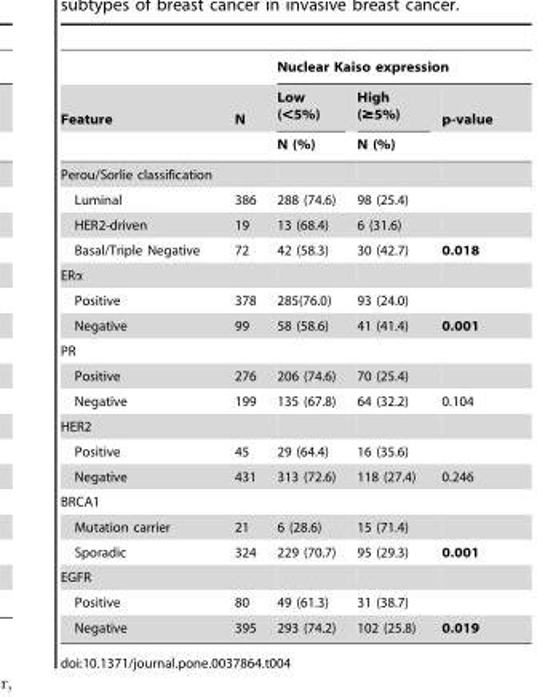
<table><thead><tr><td rowspan="3">Feature</td><td rowspan="3">N</td><td colspan="3">Nuclear Kaiso expression</td></tr><tr><td rowspan="2">Low (&lt;5%) N (%)</td><td rowspan="2">High (≥5%) N (%)</td><td rowspan="2">p-value</td></tr><tr></tr></thead><tbody><tr><td colspan="5">Perou/Sorlie classification</td></tr><tr><td>Luminal</td><td>386</td><td>288 (74.6)</td><td>98 (25.4)</td><td></td></tr><tr><td>HER2-driven</td><td>19</td><td>13 (68.4)</td><td>6 (31.6)</td><td></td></tr><tr><td>Basal/Triple Negative</td><td>72</td><td>42 (58.3)</td><td>30 (42.7)</td><td>0.018</td></tr><tr><td colspan="5">ERα</td></tr><tr><td>Positive</td><td>378</td><td>285(76.0)</td><td>93 (24.0)</td><td></td></tr><tr><td>Negative</td><td>99</td><td>58 (58.6)</td><td>41 (41.4)</td><td>0.001</td></tr><tr><td colspan="5">PR</td></tr><tr><td>Positive</td><td>276</td><td>206 (74.6)</td><td>70 (25.4)</td><td></td></tr><tr><td>Negative</td><td>199</td><td>135 (67.8)</td><td>64 (32.2)</td><td>0.104</td></tr><tr><td colspan="5">HER2</td></tr><tr><td>Positive</td><td>45</td><td>29 (64.4)</td><td>16 (35.6)</td><td></td></tr><tr><td>Negative</td><td>431</td><td>313 (72.6)</td><td>118 (27.4)</td><td>0.246</td></tr><tr><td colspan="5">BRCA1</td></tr><tr><td>Mutation carrier</td><td>21</td><td>6 (28.6)</td><td>15 (71.4)</td><td></td></tr><tr><td>Sporadic</td><td>324</td><td>229 (70.7)</td><td>95 (29.3)</td><td>0.001</td></tr><tr><td colspan="5">EGFR</td></tr><tr><td>Positive</td><td>80</td><td>49 (61.3)</td><td>31 (38.7)</td><td></td></tr><tr><td>Negative</td><td>395</td><td>293 (74.2)</td><td>102 (25.8)</td><td>0.019</td></tr></tbody></table>